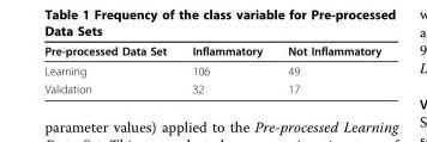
<table><thead><tr><td>Pre-processed Data Set</td><td>Inflammatory</td><td>Not Inflammatory</td></tr></thead><tbody><tr><td>Learning</td><td>106</td><td>49</td></tr><tr><td>Validation</td><td>32</td><td>17</td></tr></tbody></table>